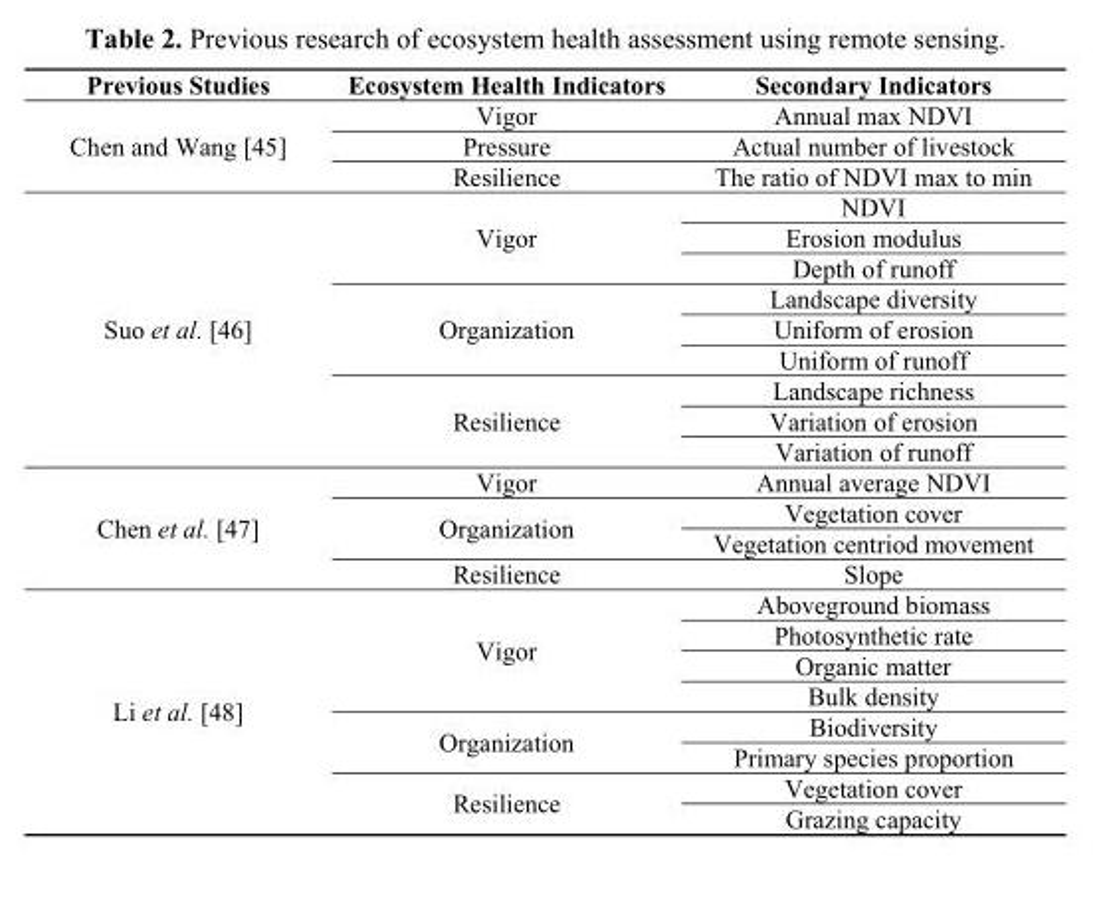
<table><thead><tr><td>Previous Studies</td><td>Ecosystem Health Indicators</td><td>Secondary Indicators</td></tr></thead><tbody><tr><td rowspan="3">Chen and Wang [45]</td><td>Vigor</td><td>Annual max NDVI</td></tr><tr><td>Pressure</td><td>Actual number of livestock</td></tr><tr><td>Resilience</td><td>The ratio of NDVI max to min</td></tr><tr><td rowspan="9">Suo et al. [46]</td><td rowspan="3">Vigor</td><td>NDVI</td></tr><tr><td>Erosion modulus</td></tr><tr><td>Depth of runoff</td></tr><tr><td rowspan="3">Organization</td><td>Landscape diversity</td></tr><tr><td>Uniform of erosion</td></tr><tr><td>Uniform of runoff</td></tr><tr><td rowspan="3">Resilience</td><td>Landscape richness</td></tr><tr><td>Variation of erosion</td></tr><tr><td>Variation of runoff</td></tr><tr><td rowspan="4">Chen et al. [47]</td><td>Vigor</td><td>Annual average NDVI</td></tr><tr><td rowspan="2">Organization</td><td>Vegetation cover</td></tr><tr><td>Vegetation centriod movement</td></tr><tr><td>Resilience</td><td>Slope</td></tr><tr><td rowspan="8">Li et al. [48]</td><td rowspan="4">Vigor</td><td>Aboveground biomass</td></tr><tr><td>Photosynthetic rate</td></tr><tr><td>Organic matter</td></tr><tr><td>Bulk density</td></tr><tr><td rowspan="2">Organization</td><td>Biodiversity</td></tr><tr><td>Primary species proportion</td></tr><tr><td rowspan="2">Resilience</td><td>Vegetation cover</td></tr><tr><td>Grazing capacity</td></tr></tbody></table>